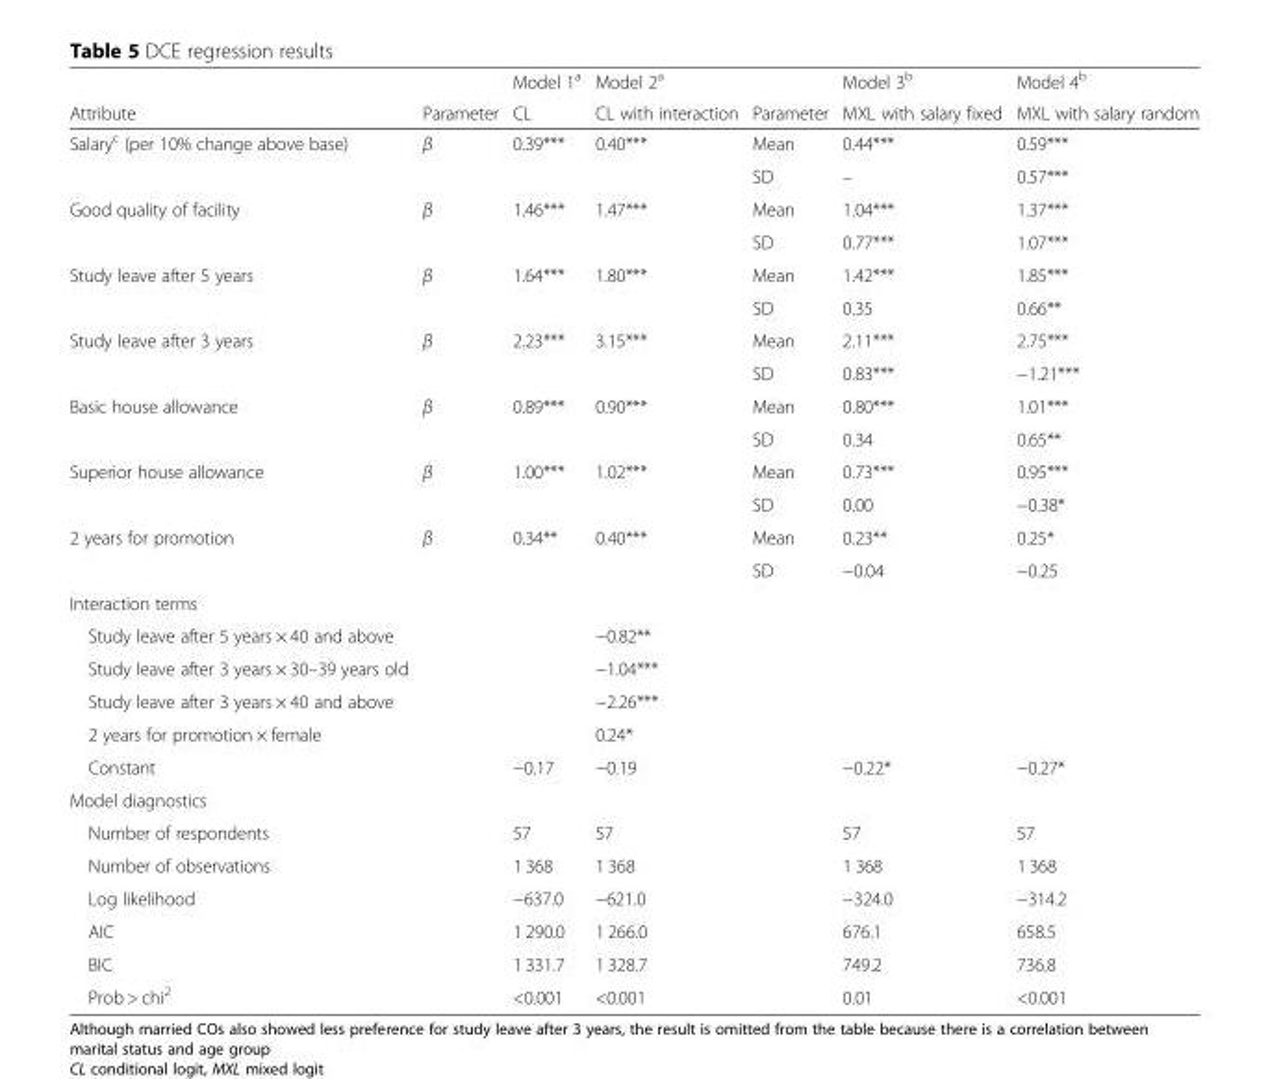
<table><thead><tr><td rowspan="2">Attribute</td><td rowspan="2">Parameter</td><td rowspan="2">Model 1<sup>a</sup> CL</td><td rowspan="2">Model 2<sup>a</sup> CL with interaction</td><td rowspan="2">Parameter</td><td rowspan="2">Model 3<sup>b</sup> MXL with salary fixed</td><td rowspan="2">Model 4<sup>b</sup> MXL with salary random</td></tr><tr></tr></thead><tbody><tr><td rowspan="2">Salary<sup>c</sup> (per 10% change above base)</td><td>β</td><td>0.39***</td><td>0.40***</td><td>Mean</td><td>0.44***</td><td>0.59***</td></tr><tr><td></td><td></td><td></td><td>SD</td><td>–</td><td>0.57***</td></tr><tr><td rowspan="2">Good quality of facility</td><td>β</td><td>1.46***</td><td>1.47***</td><td>Mean</td><td>1.04***</td><td>1.37***</td></tr><tr><td></td><td></td><td></td><td>SD</td><td>0.77***</td><td>1.07***</td></tr><tr><td rowspan="2">Study leave after 5 years</td><td>β</td><td>1.64***</td><td>1.80***</td><td>Mean</td><td>1.42***</td><td>1.85***</td></tr><tr><td></td><td></td><td></td><td>SD</td><td>0.35</td><td>0.66**</td></tr><tr><td rowspan="2">Study leave after 3 years</td><td>β</td><td>2.23***</td><td>3.15***</td><td>Mean</td><td>2.11***</td><td>2.75***</td></tr><tr><td></td><td></td><td></td><td>SD</td><td>0.83***</td><td>−1.21***</td></tr><tr><td rowspan="2">Basic house allowance</td><td>β</td><td>0.89***</td><td>0.90***</td><td>Mean</td><td>0.80***</td><td>1.01***</td></tr><tr><td></td><td></td><td></td><td>SD</td><td>0.34</td><td>0.65**</td></tr><tr><td rowspan="2">Superior house allowance</td><td>β</td><td>1.00***</td><td>1.02***</td><td>Mean</td><td>0.73***</td><td>0.95***</td></tr><tr><td></td><td></td><td></td><td>SD</td><td>0.00</td><td>−0.38*</td></tr><tr><td rowspan="2">2 years for promotion</td><td>β</td><td>0.34**</td><td>0.40***</td><td>Mean</td><td>0.23**</td><td>0.25*</td></tr><tr><td></td><td></td><td></td><td>SD</td><td>−0.04</td><td>−0.25</td></tr><tr><td colspan="7">Interaction terms</td></tr><tr><td>Study leave after 5 years × 40 and above</td><td></td><td></td><td>−0.82**</td><td></td><td></td><td></td></tr><tr><td>Study leave after 3 years × 30–39 years old</td><td></td><td></td><td>−1.04***</td><td></td><td></td><td></td></tr><tr><td>Study leave after 3 years × 40 and above</td><td></td><td></td><td>−2.26***</td><td></td><td></td><td></td></tr><tr><td>2 years for promotion × female</td><td></td><td></td><td>0.24*</td><td></td><td></td><td></td></tr><tr><td>Constant</td><td></td><td>−0.17</td><td>−0.19</td><td></td><td>−0.22*</td><td>−0.27*</td></tr><tr><td colspan="7">Model diagnostics</td></tr><tr><td>Number of respondents</td><td></td><td>57</td><td>57</td><td></td><td>57</td><td>57</td></tr><tr><td>Number of observations</td><td></td><td>1 368</td><td>1 368</td><td></td><td>1 368</td><td>1 368</td></tr><tr><td>Log likelihood</td><td></td><td>−637.0</td><td>−621.0</td><td></td><td>−324.0</td><td>−314.2</td></tr><tr><td>AIC</td><td></td><td>1 290.0</td><td>1 266.0</td><td></td><td>676.1</td><td>658.5</td></tr><tr><td>BIC</td><td></td><td>1 331.7</td><td>1 328.7</td><td></td><td>749.2</td><td>736.8</td></tr><tr><td>Prob &gt; chi<sup>2</sup></td><td></td><td>&lt;0.001</td><td>&lt;0.001</td><td></td><td>0.01</td><td>&lt;0.001</td></tr></tbody></table>